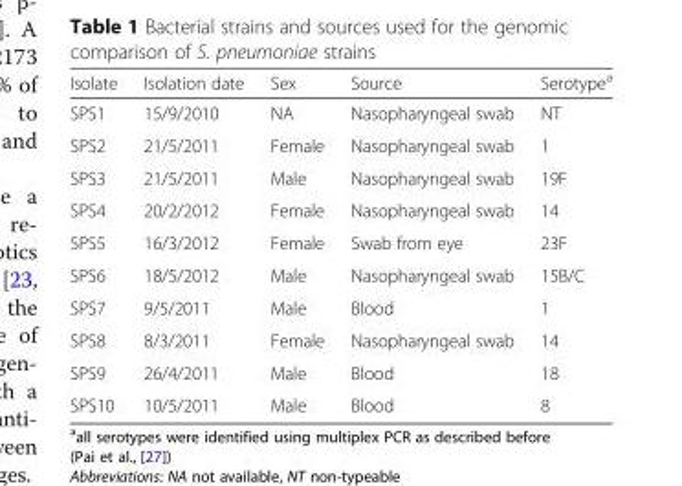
<table><thead><tr><td>Isolate</td><td>Isolation date</td><td>Sex</td><td>Source</td><td>Serotype<sup>a</sup></td></tr></thead><tbody><tr><td>SPS1</td><td>15/9/2010</td><td>NA</td><td>Nasopharyngeal swab</td><td>NT</td></tr><tr><td>SPS2</td><td>21/5/2011</td><td>Female</td><td>Nasopharyngeal swab</td><td>1</td></tr><tr><td>SPS3</td><td>21/5/2011</td><td>Male</td><td>Nasopharyngeal swab</td><td>19F</td></tr><tr><td>SPS4</td><td>20/2/2012</td><td>Female</td><td>Nasopharyngeal swab</td><td>14</td></tr><tr><td>SPS5</td><td>16/3/2012</td><td>Female</td><td>Swab from eye</td><td>23F</td></tr><tr><td>SPS6</td><td>18/5/2012</td><td>Male</td><td>Nasopharyngeal swab</td><td>15B/C</td></tr><tr><td>SPS7</td><td>9/5/2011</td><td>Male</td><td>Blood</td><td>1</td></tr><tr><td>SPS8</td><td>8/3/2011</td><td>Female</td><td>Nasopharyngeal swab</td><td>14</td></tr><tr><td>SPS9</td><td>26/4/2011</td><td>Male</td><td>Blood</td><td>18</td></tr><tr><td>SPS10</td><td>10/5/2011</td><td>Male</td><td>Blood</td><td>8</td></tr></tbody></table>